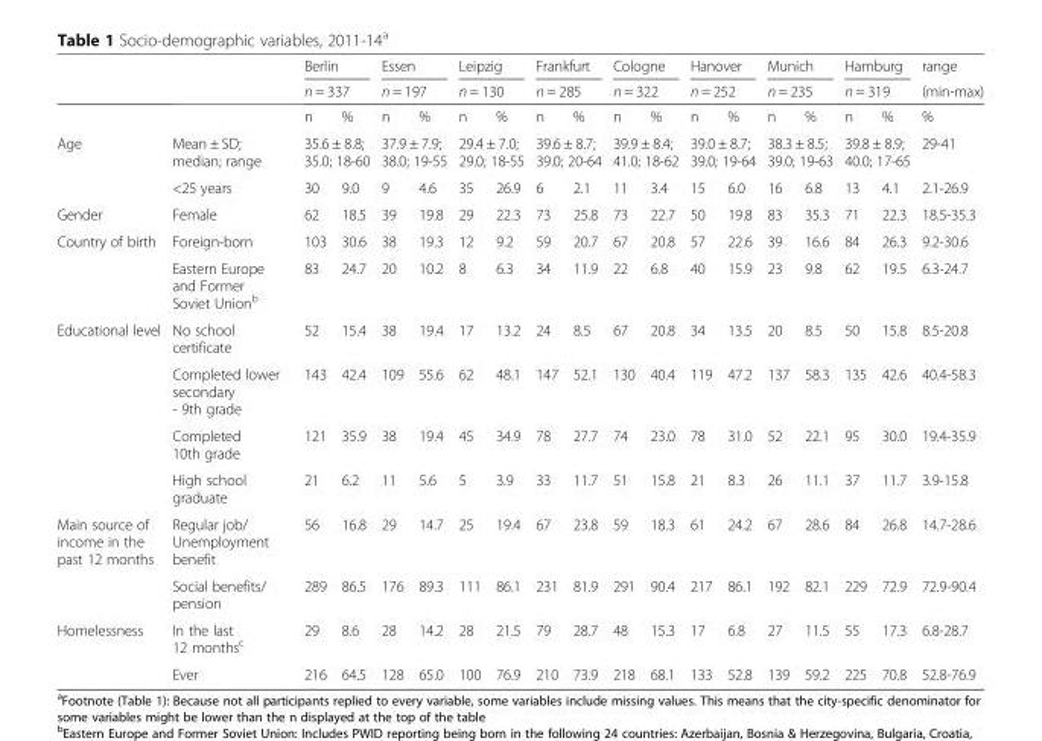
<table><thead><tr><td rowspan="3"></td><td rowspan="3"></td><td rowspan="2" colspan="2">Berlin n = 337</td><td rowspan="2" colspan="2">Essen n = 197</td><td rowspan="2" colspan="2">Leipzig n = 130</td><td rowspan="2" colspan="2">Frankfurt n = 285</td><td rowspan="2" colspan="2">Cologne n = 322</td><td rowspan="2" colspan="2">Hanover n = 252</td><td rowspan="2" colspan="2">Munich n = 235</td><td rowspan="2" colspan="2">Hamburg n = 319</td><td rowspan="3">range (min-max) %</td></tr><tr></tr><tr><td>n</td><td>%</td><td>n</td><td>%</td><td>n</td><td>%</td><td>n</td><td>%</td><td>n</td><td>%</td><td>n</td><td>%</td><td>n</td><td>%</td><td>n</td><td>%</td></tr></thead><tbody><tr><td rowspan="2">Age</td><td>Mean ± SD; median; range</td><td colspan="2">35.6 ± 8.8; 35.0; 18-60</td><td colspan="2">37.9 ± 7.9; 38.0; 19-55</td><td colspan="2">29.4 ± 7.0; 29.0; 18-55</td><td colspan="2">39.6 ± 8.7; 39.0; 20-64</td><td colspan="2">39.9 ± 8.4; 41.0; 18-62</td><td colspan="2">39.0 ± 8.7; 39.0; 19-64</td><td colspan="2">38.3 ± 8.5; 39.0; 19-63</td><td colspan="2">39.8 ± 8.9; 40.0; 17-65</td><td>29-41</td></tr><tr><td>&lt;25 years</td><td>30</td><td>9.0</td><td>9</td><td>4.6</td><td>35</td><td>26.9</td><td>6</td><td>2.1</td><td>11</td><td>3.4</td><td>15</td><td>6.0</td><td>16</td><td>6.8</td><td>13</td><td>4.1</td><td>2.1-26.9</td></tr><tr><td>Gender</td><td>Female</td><td>62</td><td>18.5</td><td>39</td><td>19.8</td><td>29</td><td>22.3</td><td>73</td><td>25.8</td><td>73</td><td>22.7</td><td>50</td><td>19.8</td><td>83</td><td>35.3</td><td>71</td><td>22.3</td><td>18.5-35.3</td></tr><tr><td rowspan="2">Country of birth</td><td>Foreign-born</td><td>103</td><td>30.6</td><td>38</td><td>19.3</td><td>12</td><td>9.2</td><td>59</td><td>20.7</td><td>67</td><td>20.8</td><td>57</td><td>22.6</td><td>39</td><td>16.6</td><td>84</td><td>26.3</td><td>9.2-30.6</td></tr><tr><td>Eastern Europe and Former Soviet Union<sup>b</sup></td><td>83</td><td>24.7</td><td>20</td><td>10.2</td><td>8</td><td>6.3</td><td>34</td><td>11.9</td><td>22</td><td>6.8</td><td>40</td><td>15.9</td><td>23</td><td>9.8</td><td>62</td><td>19.5</td><td>6.3-24.7</td></tr><tr><td rowspan="4">Educational level</td><td>No school certificate</td><td>52</td><td>15.4</td><td>38</td><td>19.4</td><td>17</td><td>13.2</td><td>24</td><td>8.5</td><td>67</td><td>20.8</td><td>34</td><td>13.5</td><td>20</td><td>8.5</td><td>50</td><td>15.8</td><td>8.5-20.8</td></tr><tr><td>Completed lower secondary - 9th grade</td><td>143</td><td>42.4</td><td>109</td><td>55.6</td><td>62</td><td>48.1</td><td>147</td><td>52.1</td><td>130</td><td>40.4</td><td>119</td><td>47.2</td><td>137</td><td>58.3</td><td>135</td><td>42.6</td><td>40.4-58.3</td></tr><tr><td>Completed 10th grade</td><td>121</td><td>35.9</td><td>38</td><td>19.4</td><td>45</td><td>34.9</td><td>78</td><td>27.7</td><td>74</td><td>23.0</td><td>78</td><td>31.0</td><td>52</td><td>22.1</td><td>95</td><td>30.0</td><td>19.4-35.9</td></tr><tr><td>High school graduate</td><td>21</td><td>6.2</td><td>11</td><td>5.6</td><td>5</td><td>3.9</td><td>33</td><td>11.7</td><td>51</td><td>15.8</td><td>21</td><td>8.3</td><td>26</td><td>11.1</td><td>37</td><td>11.7</td><td>3.9-15.8</td></tr><tr><td rowspan="2">Main source of income in the past 12 months</td><td>Regular job/ Unemployment benefit</td><td>56</td><td>16.8</td><td>29</td><td>14.7</td><td>25</td><td>19.4</td><td>67</td><td>23.8</td><td>59</td><td>18.3</td><td>61</td><td>24.2</td><td>67</td><td>28.6</td><td>84</td><td>26.8</td><td>14.7-28.6</td></tr><tr><td>Social benefits/ pension</td><td>289</td><td>86.5</td><td>176</td><td>89.3</td><td>111</td><td>86.1</td><td>231</td><td>81.9</td><td>291</td><td>90.4</td><td>217</td><td>86.1</td><td>192</td><td>82.1</td><td>229</td><td>72.9</td><td>72.9-90.4</td></tr><tr><td rowspan="2">Homelessness</td><td>In the last 12 months<sup>c</sup></td><td>29</td><td>8.6</td><td>28</td><td>14.2</td><td>28</td><td>21.5</td><td>79</td><td>28.7</td><td>48</td><td>15.3</td><td>17</td><td>6.8</td><td>27</td><td>11.5</td><td>55</td><td>17.3</td><td>6.8-28.7</td></tr><tr><td>Ever</td><td>216</td><td>64.5</td><td>128</td><td>65.0</td><td>100</td><td>76.9</td><td>210</td><td>73.9</td><td>218</td><td>68.1</td><td>133</td><td>52.8</td><td>139</td><td>59.2</td><td>225</td><td>70.8</td><td>52.8-76.9</td></tr></tbody></table>